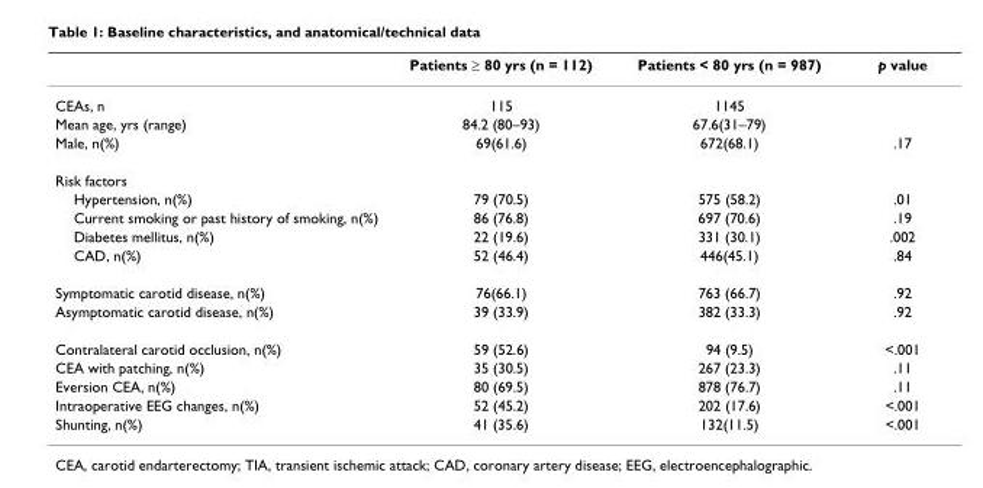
<table><thead><tr><td></td><td>Patients ≥ 80 yrs (n = 112)</td><td>Patients &lt; 80 yrs (n = 987)</td><td>p value</td></tr></thead><tbody><tr><td>CEAs, n</td><td>115</td><td>1145</td><td></td></tr><tr><td>Mean age, yrs (range)</td><td>84.2 (80–93)</td><td>67.6(31–79)</td><td></td></tr><tr><td>Male, n(%)</td><td>69(61.6)</td><td>672(68.1)</td><td>.17</td></tr><tr><td colspan="4">Risk factors</td></tr><tr><td>Hypertension, n(%)</td><td>79 (70.5)</td><td>575 (58.2)</td><td>.01</td></tr><tr><td>Current smoking or past history of smoking, n(%)</td><td>86 (76.8)</td><td>697 (70.6)</td><td>.19</td></tr><tr><td>Diabetes mellitus, n(%)</td><td>22 (19.6)</td><td>331 (30.1)</td><td>.002</td></tr><tr><td>CAD, n(%)</td><td>52 (46.4)</td><td>446(45.1)</td><td>.84</td></tr><tr><td>Symptomatic carotid disease, n(%)</td><td>76(66.1)</td><td>763 (66.7)</td><td>.92</td></tr><tr><td>Asymptomatic carotid disease, n(%)</td><td>39 (33.9)</td><td>382 (33.3)</td><td>.92</td></tr><tr><td>Contralateral carotid occlusion, n(%)</td><td>59 (52.6)</td><td>94 (9.5)</td><td>&lt;.001</td></tr><tr><td>CEA with patching, n(%)</td><td>35 (30.5)</td><td>267 (23.3)</td><td>.11</td></tr><tr><td>Eversion CEA, n(%)</td><td>80 (69.5)</td><td>878 (76.7)</td><td>.11</td></tr><tr><td>Intraoperative EEG changes, n(%)</td><td>52 (45.2)</td><td>202 (17.6)</td><td>&lt;.001</td></tr><tr><td>Shunting, n(%)</td><td>41 (35.6)</td><td>132(11.5)</td><td>&lt;.001</td></tr></tbody></table>